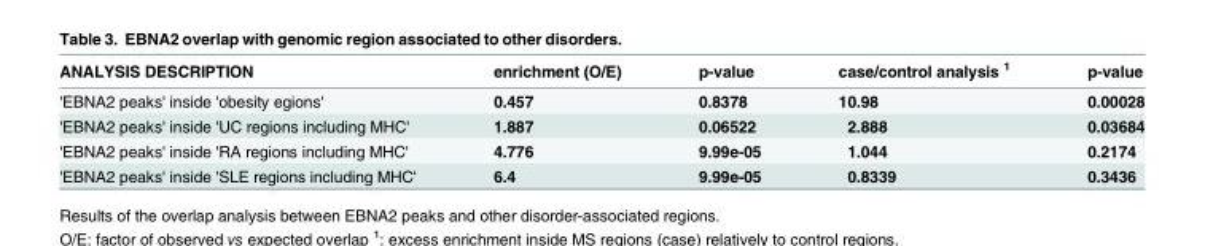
<table><thead><tr><td>ANALYSIS DESCRIPTION</td><td>enrichment (O/E)</td><td>p-value</td><td>case/control analysis <sup>1</sup></td><td>p-value</td></tr></thead><tbody><tr><td>&#x27;EBNA2 peaks&#x27; inside &#x27;obesity egions&#x27;</td><td>0.457</td><td>0.8378</td><td>10.98</td><td>0.00028</td></tr><tr><td>&#x27;EBNA2 peaks&#x27; inside &#x27;UC regions including MHC&#x27;</td><td>1.887</td><td>0.06522</td><td>2.888</td><td>0.03684</td></tr><tr><td>&#x27;EBNA2 peaks&#x27; inside &#x27;RA regions including MHC&#x27;</td><td>4.776</td><td>9.99e-05</td><td>1.044</td><td>0.2174</td></tr><tr><td>&#x27;EBNA2 peaks&#x27; inside &#x27;SLE regions including MHC&#x27;</td><td>6.4</td><td>9.99e-05</td><td>0.8339</td><td>0.3436</td></tr></tbody></table>